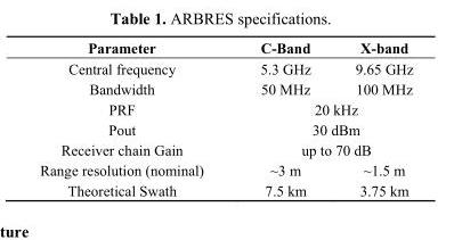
<table><thead><tr><td>Parameter</td><td>C-Band</td><td>X-band</td></tr></thead><tbody><tr><td>Central frequency</td><td>5.3 GHz</td><td>9.65 GHz</td></tr><tr><td>Bandwidth</td><td>50 MHz</td><td>100 MHz</td></tr><tr><td>PRF</td><td colspan="2">20 kHz</td></tr><tr><td>Pout</td><td colspan="2">30 dBm</td></tr><tr><td>Receiver chain Gain</td><td colspan="2">up to 70 dB</td></tr><tr><td>Range resolution (nominal)</td><td>~3 m</td><td>~1.5 m</td></tr><tr><td>Theoretical Swath</td><td>7.5 km</td><td>3.75 km</td></tr></tbody></table>